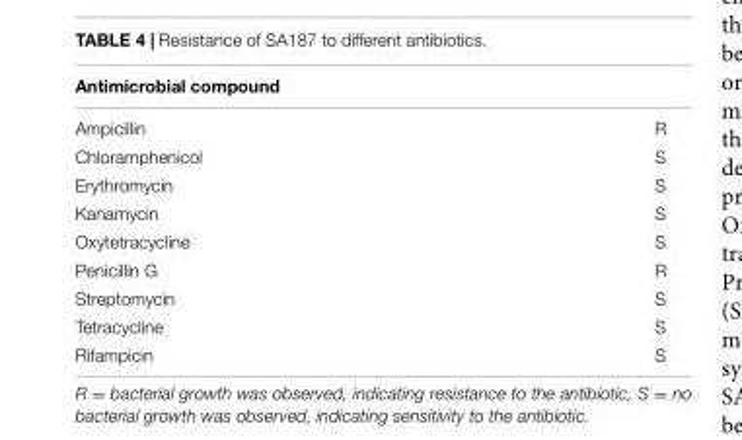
<table><thead><tr><td colspan="2">Antimicrobial compound</td></tr><tr><td>Ampicillin</td><td>R</td></tr></thead><tbody><tr><td>Chloramphenicol</td><td>S</td></tr><tr><td>Erythromycin</td><td>S</td></tr><tr><td>Kanamycin</td><td>S</td></tr><tr><td>Oxytetracycline</td><td>S</td></tr><tr><td>Penicillin G</td><td>R</td></tr><tr><td>Streptomycin</td><td>S</td></tr><tr><td>Tetracycline</td><td>S</td></tr><tr><td>Rifampicin</td><td>S</td></tr></tbody></table>